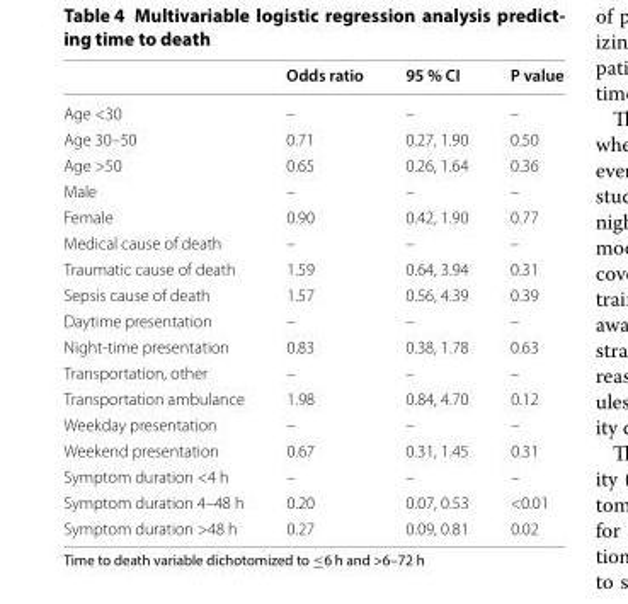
<table><thead><tr><td></td><td>Odds ratio</td><td>95 % CI</td><td>P value</td></tr></thead><tbody><tr><td>Age &lt;30</td><td>–</td><td>–</td><td>–</td></tr><tr><td>Age 30–50</td><td>0.71</td><td>0.27, 1.90</td><td>0.50</td></tr><tr><td>Age &gt;50</td><td>0.65</td><td>0.26, 1.64</td><td>0.36</td></tr><tr><td>Male</td><td>–</td><td>–</td><td>–</td></tr><tr><td>Female</td><td>0.90</td><td>0.42, 1.90</td><td>0.77</td></tr><tr><td>Medical cause of death</td><td>–</td><td>–</td><td>–</td></tr><tr><td>Traumatic cause of death</td><td>1.59</td><td>0.64, 3.94</td><td>0.31</td></tr><tr><td>Sepsis cause of death</td><td>1.57</td><td>0.56, 4.39</td><td>0.39</td></tr><tr><td>Daytime presentation</td><td>–</td><td>–</td><td>–</td></tr><tr><td>Night-time presentation</td><td>0.83</td><td>0.38, 1.78</td><td>0.63</td></tr><tr><td>Transportation, other</td><td>–</td><td>–</td><td>–</td></tr><tr><td>Transportation ambulance</td><td>1.98</td><td>0.84, 4.70</td><td>0.12</td></tr><tr><td>Weekday presentation</td><td>–</td><td>–</td><td>–</td></tr><tr><td>Weekend presentation</td><td>0.67</td><td>0.31, 1.45</td><td>0.31</td></tr><tr><td>Symptom duration &lt;4 h</td><td>–</td><td>–</td><td>–</td></tr><tr><td>Symptom duration 4–48 h</td><td>0.20</td><td>0.07, 0.53</td><td>&lt;0.01</td></tr><tr><td>Symptom duration &gt;48 h</td><td>0.27</td><td>0.09, 0.81</td><td>0.02</td></tr></tbody></table>